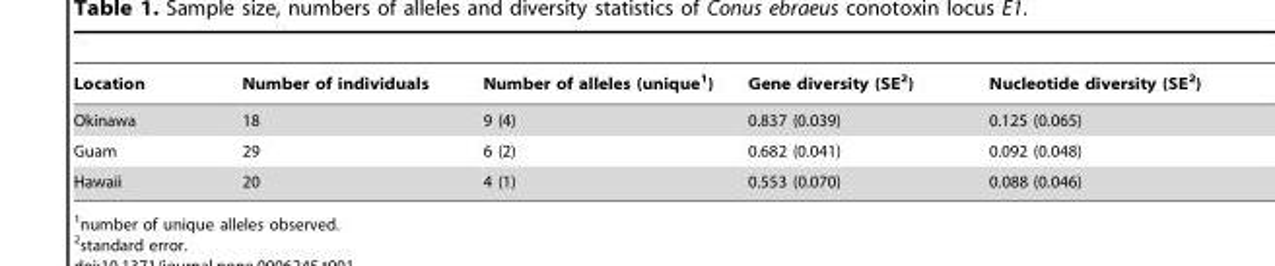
<table><thead><tr><td>Location</td><td>Number of individuals</td><td>Number of alleles (unique<sup>1</sup>)</td><td>Gene diversity (SE<sup>2</sup>)</td><td>Nucleotide diversity (SE<sup>2</sup>)</td></tr></thead><tbody><tr><td>Okinawa</td><td>18</td><td>9 (4)</td><td>0.837 (0.039)</td><td>0.125 (0.065)</td></tr><tr><td>Guam</td><td>29</td><td>6 (2)</td><td>0.682 (0.041)</td><td>0.092 (0.048)</td></tr><tr><td>Hawaii</td><td>20</td><td>4 (1)</td><td>0.553 (0.070)</td><td>0.088 (0.046)</td></tr></tbody></table>